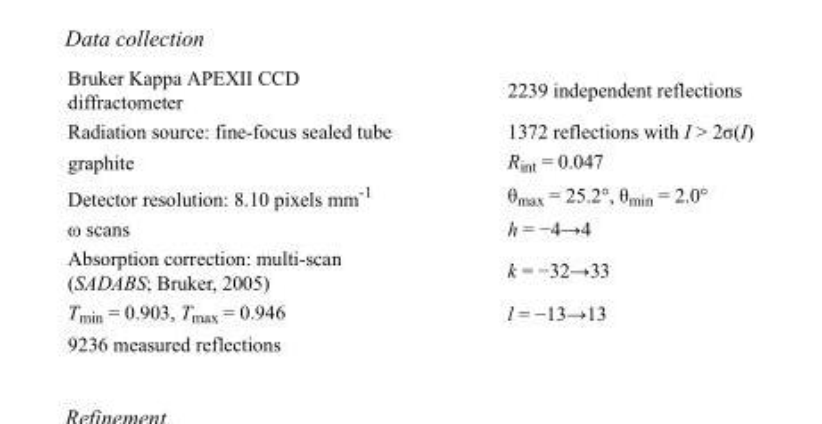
<table><tbody><tr><td>Bruker Kappa APEXII CCD diffractometer</td><td>2239 independent reflections</td></tr><tr><td>Radiation source: fine-focus sealed tube</td><td>1372 reflections with I &gt; 2σ(I)</td></tr><tr><td>graphite</td><td>R<sub>int</sub> = 0.047</td></tr><tr><td>Detector resolution: 8.10 pixels mm<sup>-1</sup></td><td>θ<sub>max</sub> = 25.2°, θ<sub>min</sub> = 2.0°</td></tr><tr><td>ω scans</td><td>h = −4→4</td></tr><tr><td>Absorption correction: multi-scan (SADABS; Bruker, 2005)</td><td>k = −32→33</td></tr><tr><td>T<sub>min</sub> = 0.903, T<sub>max</sub> = 0.946</td><td>l = −13→13</td></tr><tr><td>9236 measured reflections</td><td></td></tr></tbody></table>